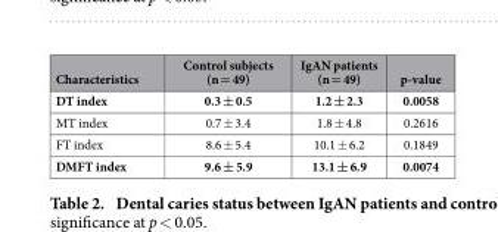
<table><thead><tr><td>Characteristics</td><td>Control subjects (n = 49)</td><td>IgAN patients (n = 49)</td><td>p-value</td></tr></thead><tbody><tr><td>DT index</td><td>0.3 ± 0.5</td><td>1.2 ± 2.3</td><td>0.0058</td></tr><tr><td>MT index</td><td>0.7 ± 3.4</td><td>1.8 ± 4.8</td><td>0.2616</td></tr><tr><td>FT index</td><td>8.6 ± 5.4</td><td>10.1 ± 6.2</td><td>0.1849</td></tr><tr><td>DMFT index</td><td>9.6 ± 5.9</td><td>13.1 ± 6.9</td><td>0.0074</td></tr></tbody></table>